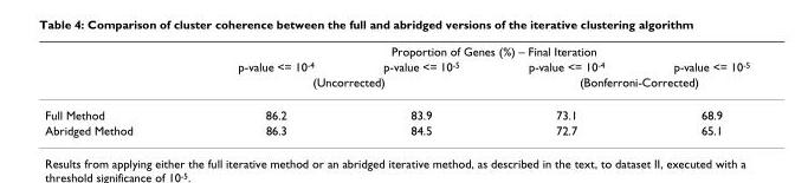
<table><thead><tr><td rowspan="3"></td><td colspan="4">Proportion of Genes (%) – Final Iteration</td></tr><tr><td>p-value &lt;= 10<sup>-4</sup></td><td>p-value &lt;= 10<sup>-5</sup></td><td>p-value &lt;= 10<sup>-4</sup></td><td>p-value &lt;= 10<sup>-5</sup></td></tr><tr><td colspan="2">(Uncorrected)</td><td colspan="2">(Bonferroni-Corrected)</td></tr></thead><tbody><tr><td>Full Method</td><td>86.2</td><td>83.9</td><td>73.1</td><td>68.9</td></tr><tr><td>Abridged Method</td><td>86.3</td><td>84.5</td><td>72.7</td><td>65.1</td></tr></tbody></table>